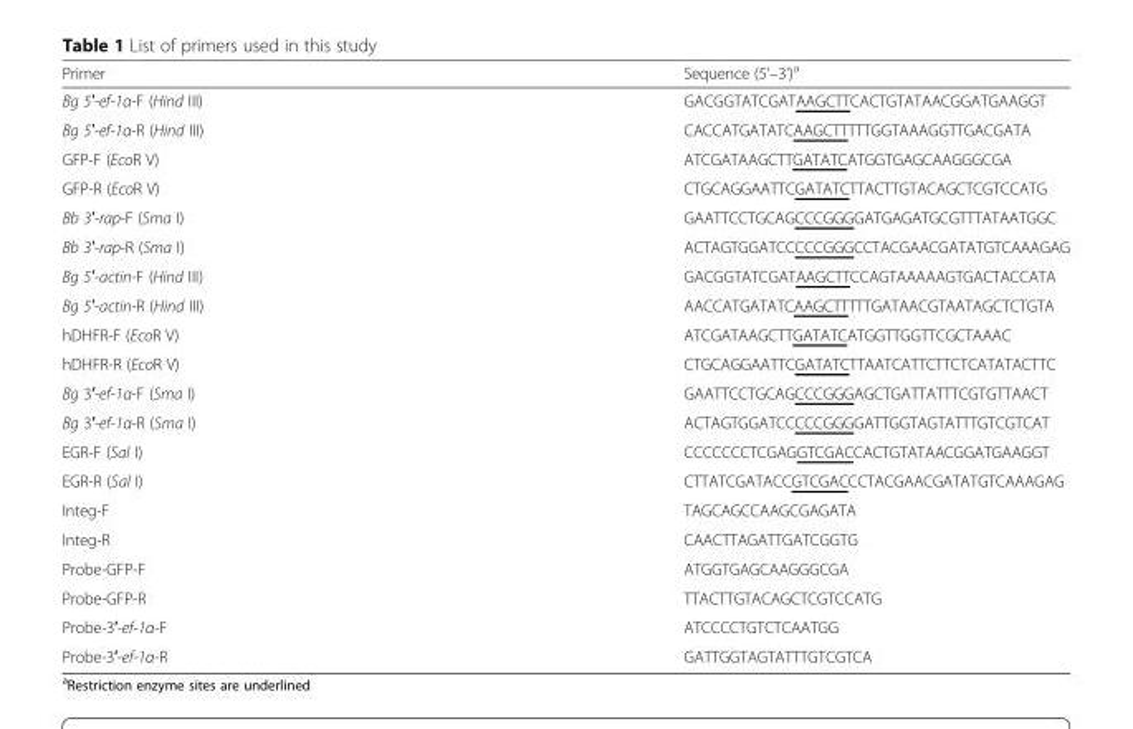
<table><thead><tr><td>Primer</td><td>Sequence (5&#x27;–3&#x27;)<sup>a</sup></td></tr></thead><tbody><tr><td>Bg 5′-ef-1α-F (Hind III)</td><td>GACGGTATCGATAAGCTTCACTGTATAACGGATGAAGGT</td></tr><tr><td>Bg 5′-ef-1α-R (Hind III)</td><td>CACCATGATATCAAGCTTTTTGGTAAAGGTTGACGATA</td></tr><tr><td>GFP-F (EcoR V)</td><td>ATCGATAAGCTTGATATCATGGTGAGCAAGGGCGA</td></tr><tr><td>GFP-R (EcoR V)</td><td>CTGCAGGAATTCGATATCTTACTTGTACAGCTCGTCCATG</td></tr><tr><td>Bb 3′-rap-F (Sma I)</td><td>GAATTCCTGCAGCCCGGGGATGAGATGCGTTTATAATGGC</td></tr><tr><td>Bb 3′-rap-R (Sma I)</td><td>ACTAGTGGATCCCCCGGGCCTACGAACGATATGTCAAAGAG</td></tr><tr><td>Bg 5′-actin-F (Hind III)</td><td>GACGGTATCGATAAGCTTCCAGTAAAAAGTGACTACCATA</td></tr><tr><td>Bg 5′-actin-R (Hind III)</td><td>AACCATGATATCAAGCTTTTTGATAACGTAATAGCTCTGTA</td></tr><tr><td>hDHFR-F (EcoR V)</td><td>ATCGATAAGCTTGATATCATGGTTGGTTCGCTAAAC</td></tr><tr><td>hDHFR-R (EcoR V)</td><td>CTGCAGGAATTCGATATCTTAATCATTCTTCTCATATACTTC</td></tr><tr><td>Bg 3′-ef-1α-F (Sma I)</td><td>GAATTCCTGCAGCCCGGGAGCTGATTATTTCGTGTTAACT</td></tr><tr><td>Bg 3′-ef-1α-R (Sma I)</td><td>ACTAGTGGATCCCCCGGGGATTGGTAGTATTTGTCGTCAT</td></tr><tr><td>EGR-F (Sal I)</td><td>CCCCCCCTCGAGGTCGACCACTGTATAACGGATGAAGGT</td></tr><tr><td>EGR-R (Sal I)</td><td>CTTATCGATACCGTCGACCCTACGAACGATATGTCAAAGAG</td></tr><tr><td>Integ-F</td><td>TAGCAGCCAAGCGAGATA</td></tr><tr><td>Integ-R</td><td>CAACTTAGATTGATCGGTG</td></tr><tr><td>Probe-GFP-F</td><td>ATGGTGAGCAAGGGCGA</td></tr><tr><td>Probe-GFP-R</td><td>TTACTTGTACAGCTCGTCCATG</td></tr><tr><td>Probe-3′-ef-1α-F</td><td>ATCCCCTGTCTCAATGG</td></tr><tr><td>Probe-3′-ef-1α-R</td><td>GATTGGTAGTATTTGTCGTCA</td></tr></tbody></table>